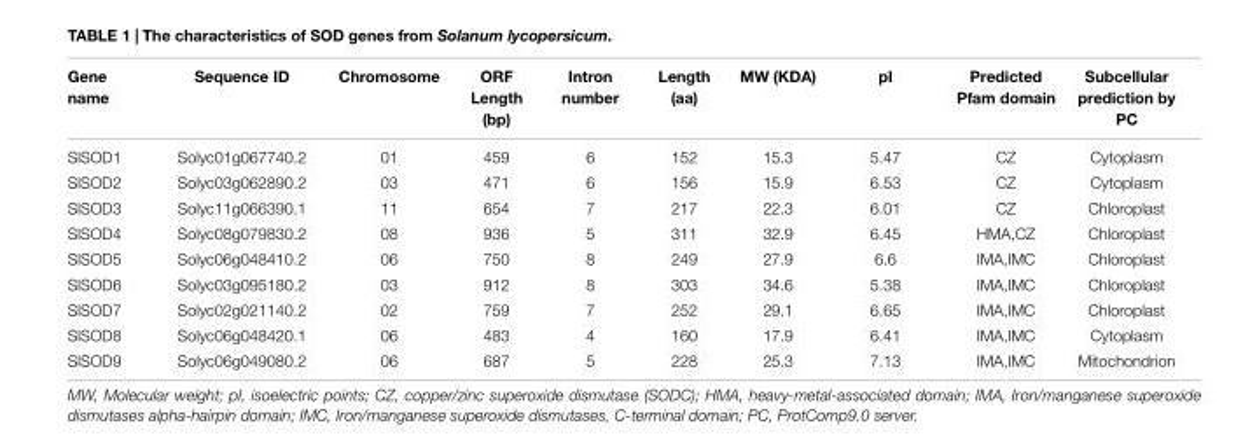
<table><thead><tr><td>Gene name</td><td>Sequence ID</td><td>Chromosome</td><td>ORF Length (bp)</td><td>Intron number</td><td>Length (aa)</td><td>MW (KDA)</td><td>pI</td><td>Predicted Pfam domain</td><td>Subcellular prediction by PC</td></tr></thead><tbody><tr><td>SlSOD1</td><td>Solyc01g067740.2</td><td>01</td><td>459</td><td>6</td><td>152</td><td>15.3</td><td>5.47</td><td>CZ</td><td>Cytoplasm</td></tr><tr><td>SlSOD2</td><td>Solyc03g062890.2</td><td>03</td><td>471</td><td>6</td><td>156</td><td>15.9</td><td>6.53</td><td>CZ</td><td>Cytoplasm</td></tr><tr><td>SlSOD3</td><td>Solyc11g066390.1</td><td>11</td><td>654</td><td>7</td><td>217</td><td>22.3</td><td>6.01</td><td>CZ</td><td>Chloroplast</td></tr><tr><td>SlSOD4</td><td>Solyc08g079830.2</td><td>08</td><td>936</td><td>5</td><td>311</td><td>32.9</td><td>6.45</td><td>HMA,CZ</td><td>Chloroplast</td></tr><tr><td>SlSOD5</td><td>Solyc06g048410.2</td><td>06</td><td>750</td><td>8</td><td>249</td><td>27.9</td><td>6.6</td><td>IMA,IMC</td><td>Chloroplast</td></tr><tr><td>SlSOD6</td><td>Solyc03g095180.2</td><td>03</td><td>912</td><td>8</td><td>303</td><td>34.6</td><td>5.38</td><td>IMA,IMC</td><td>Chloroplast</td></tr><tr><td>SlSOD7</td><td>Solyc02g021140.2</td><td>02</td><td>759</td><td>7</td><td>252</td><td>29.1</td><td>6.65</td><td>IMA,IMC</td><td>Chloroplast</td></tr><tr><td>SlSOD8</td><td>Solyc06g048420.1</td><td>06</td><td>483</td><td>4</td><td>160</td><td>17.9</td><td>6.41</td><td>IMA,IMC</td><td>Cytoplasm</td></tr><tr><td>SlSOD9</td><td>Solyc06g049080.2</td><td>06</td><td>687</td><td>5</td><td>228</td><td>25.3</td><td>7.13</td><td>IMA,IMC</td><td>Mitochondrion</td></tr></tbody></table>